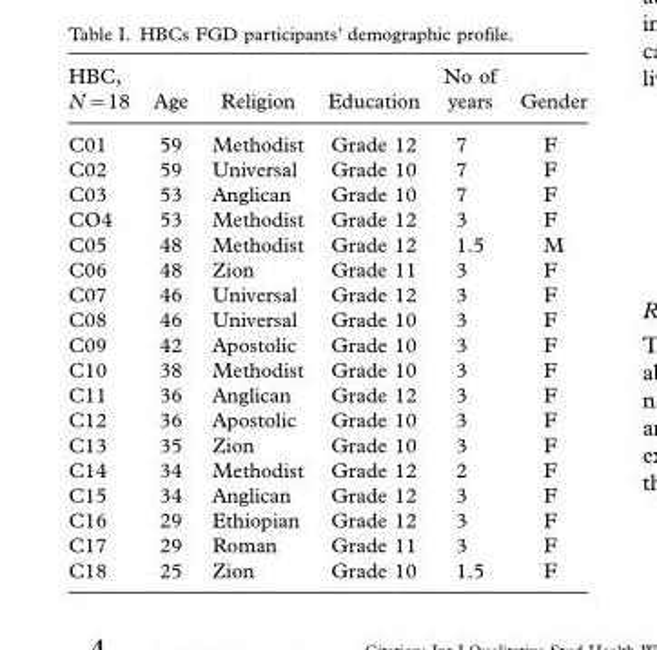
<table><thead><tr><td>HBC, N=18</td><td>Age</td><td>Religion</td><td>Education</td><td>No of years</td><td>Gender</td></tr></thead><tbody><tr><td>C01</td><td>59</td><td>Methodist</td><td>Grade 12</td><td>7</td><td>F</td></tr><tr><td>C02</td><td>59</td><td>Universal</td><td>Grade 10</td><td>7</td><td>F</td></tr><tr><td>C03</td><td>53</td><td>Anglican</td><td>Grade 10</td><td>7</td><td>F</td></tr><tr><td>CO4</td><td>53</td><td>Methodist</td><td>Grade 12</td><td>3</td><td>F</td></tr><tr><td>C05</td><td>48</td><td>Methodist</td><td>Grade 12</td><td>1.5</td><td>M</td></tr><tr><td>C06</td><td>48</td><td>Zion</td><td>Grade 11</td><td>3</td><td>F</td></tr><tr><td>C07</td><td>46</td><td>Universal</td><td>Grade 12</td><td>3</td><td>F</td></tr><tr><td>C08</td><td>46</td><td>Universal</td><td>Grade 10</td><td>3</td><td>F</td></tr><tr><td>C09</td><td>42</td><td>Apostolic</td><td>Grade 10</td><td>3</td><td>F</td></tr><tr><td>C10</td><td>38</td><td>Methodist</td><td>Grade 10</td><td>3</td><td>F</td></tr><tr><td>C11</td><td>36</td><td>Anglican</td><td>Grade 12</td><td>3</td><td>F</td></tr><tr><td>C12</td><td>36</td><td>Apostolic</td><td>Grade 10</td><td>3</td><td>F</td></tr><tr><td>C13</td><td>35</td><td>Zion</td><td>Grade 10</td><td>3</td><td>F</td></tr><tr><td>C14</td><td>34</td><td>Methodist</td><td>Grade 12</td><td>2</td><td>F</td></tr><tr><td>C15</td><td>34</td><td>Anglican</td><td>Grade 12</td><td>3</td><td>F</td></tr><tr><td>C16</td><td>29</td><td>Ethiopian</td><td>Grade 12</td><td>3</td><td>F</td></tr><tr><td>C17</td><td>29</td><td>Roman</td><td>Grade 11</td><td>3</td><td>F</td></tr><tr><td>C18</td><td>25</td><td>Zion</td><td>Grade 10</td><td>1.5</td><td>F</td></tr></tbody></table>